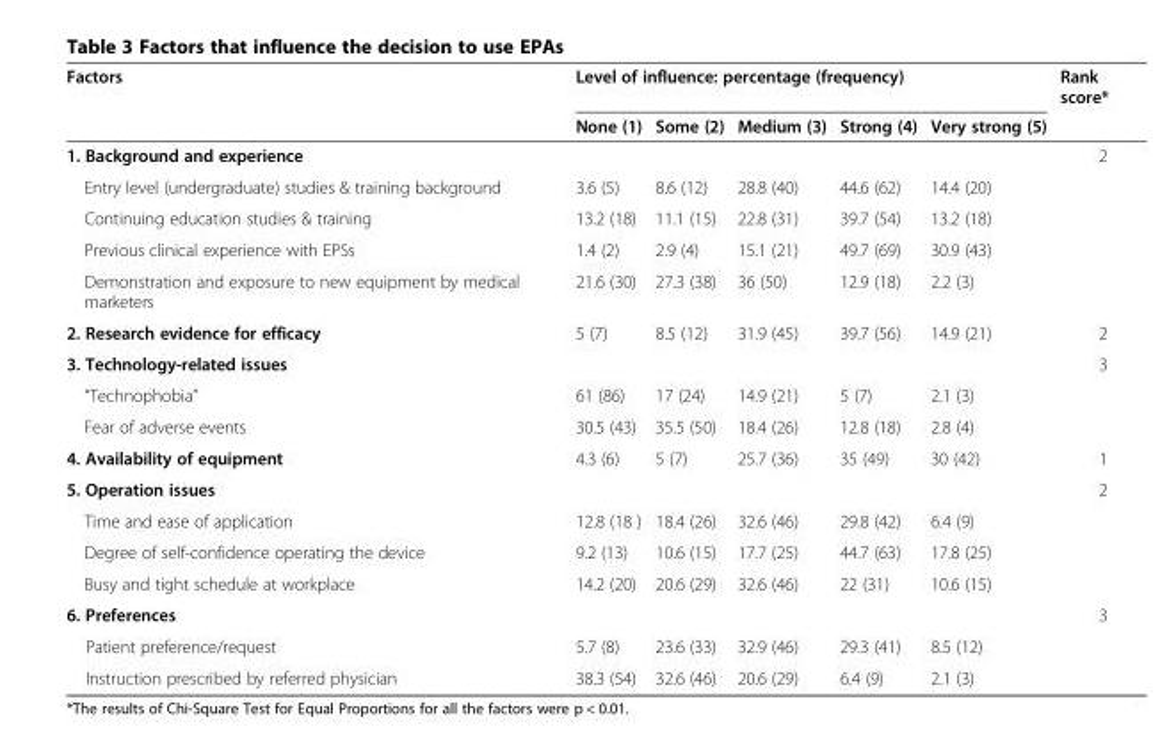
<table><thead><tr><td rowspan="2">Factors</td><td colspan="5">Level of influence: percentage (frequency)</td><td rowspan="2">Rank score*</td></tr><tr><td>None (1)</td><td>Some (2)</td><td>Medium (3)</td><td>Strong (4)</td><td>Very strong (5)</td></tr></thead><tbody><tr><td colspan="6">1. Background and experience</td><td>2</td></tr><tr><td>Entry level (undergraduate) studies &amp; training background</td><td>3.6 (5)</td><td>8.6 (12)</td><td>28.8 (40)</td><td>44.6 (62)</td><td>14.4 (20)</td><td rowspan="4"></td></tr><tr><td>Continuing education studies &amp; training</td><td>13.2 (18)</td><td>11.1 (15)</td><td>22.8 (31)</td><td>39.7 (54)</td><td>13.2 (18)</td></tr><tr><td>Previous clinical experience with EPSs</td><td>1.4 (2)</td><td>2.9 (4)</td><td>15.1 (21)</td><td>49.7 (69)</td><td>30.9 (43)</td></tr><tr><td>Demonstration and exposure to new equipment by medical marketers</td><td>21.6 (30)</td><td>27.3 (38)</td><td>36 (50)</td><td>12.9 (18)</td><td>2.2 (3)</td></tr><tr><td>2. Research evidence for efficacy</td><td>5 (7)</td><td>8.5 (12)</td><td>31.9 (45)</td><td>39.7 (56)</td><td>14.9 (21)</td><td>2</td></tr><tr><td colspan="6">3. Technology-related issues</td><td>3</td></tr><tr><td>“Technophobia”</td><td>61 (86)</td><td>17 (24)</td><td>14.9 (21)</td><td>5 (7)</td><td>2.1 (3)</td><td rowspan="2"></td></tr><tr><td>Fear of adverse events</td><td>30.5 (43)</td><td>35.5 (50)</td><td>18.4 (26)</td><td>12.8 (18)</td><td>2.8 (4)</td></tr><tr><td>4. Availability of equipment</td><td>4.3 (6)</td><td>5 (7)</td><td>25.7 (36)</td><td>35 (49)</td><td>30 (42)</td><td>1</td></tr><tr><td colspan="6">5. Operation issues</td><td>2</td></tr><tr><td>Time and ease of application</td><td>12.8 (18 )</td><td>18.4 (26)</td><td>32.6 (46)</td><td>29.8 (42)</td><td>6.4 (9)</td><td rowspan="3"></td></tr><tr><td>Degree of self-confidence operating the device</td><td>9.2 (13)</td><td>10.6 (15)</td><td>17.7 (25)</td><td>44.7 (63)</td><td>17.8 (25)</td></tr><tr><td>Busy and tight schedule at workplace</td><td>14.2 (20)</td><td>20.6 (29)</td><td>32.6 (46)</td><td>22 (31)</td><td>10.6 (15)</td></tr><tr><td colspan="6">6. Preferences</td><td>3</td></tr><tr><td>Patient preference/request</td><td>5.7 (8)</td><td>23.6 (33)</td><td>32.9 (46)</td><td>29.3 (41)</td><td>8.5 (12)</td><td rowspan="2"></td></tr><tr><td>Instruction prescribed by referred physician</td><td>38.3 (54)</td><td>32.6 (46)</td><td>20.6 (29)</td><td>6.4 (9)</td><td>2.1 (3)</td></tr></tbody></table>